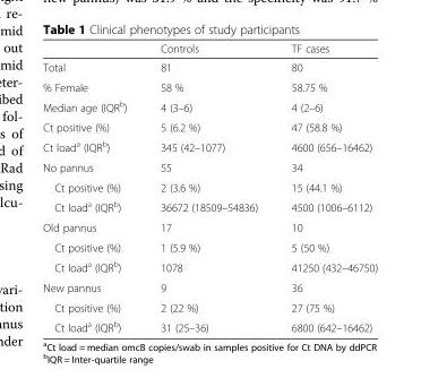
<table><thead><tr><td></td><td>Controls</td><td>TF cases</td></tr></thead><tbody><tr><td>Total</td><td>81</td><td>80</td></tr><tr><td>% Female</td><td>58 %</td><td>58.75 %</td></tr><tr><td>Median age (IQR<sup>b</sup>)</td><td>4 (3–6)</td><td>4 (2–6)</td></tr><tr><td>Ct positive (%)</td><td>5 (6.2 %)</td><td>47 (58.8 %)</td></tr><tr><td>Ct load<sup>a</sup> (IQR<sup>b</sup>)</td><td>345 (42–1077)</td><td>4600 (656–16462)</td></tr><tr><td>No pannus</td><td>55</td><td>34</td></tr><tr><td>Ct positive (%)</td><td>2 (3.6 %)</td><td>15 (44.1 %)</td></tr><tr><td>Ct load<sup>a</sup> (IQR<sup>b</sup>)</td><td>36672 (18509–54836)</td><td>4500 (1006–6112)</td></tr><tr><td>Old pannus</td><td>17</td><td>10</td></tr><tr><td>Ct positive (%)</td><td>1 (5.9 %)</td><td>5 (50 %)</td></tr><tr><td>Ct load<sup>a</sup> (IQR<sup>b</sup>)</td><td>1078</td><td>41250 (432–46750)</td></tr><tr><td>New pannus</td><td>9</td><td>36</td></tr><tr><td>Ct positive (%)</td><td>2 (22 %)</td><td>27 (75 %)</td></tr><tr><td>Ct load<sup>a</sup> (IQR<sup>b</sup>)</td><td>31 (25–36)</td><td>6800 (642–16462)</td></tr></tbody></table>